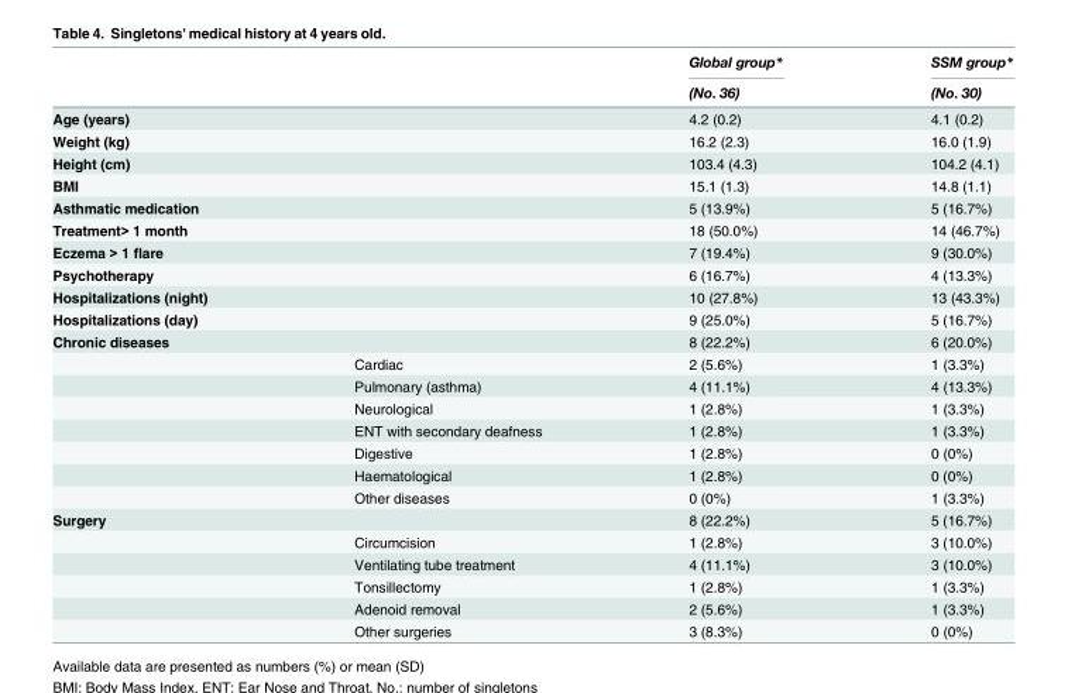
<table><thead><tr><td rowspan="2"></td><td rowspan="2"></td><td rowspan="2">Global group* (No. 36)</td><td rowspan="2">SSM group* (No. 30)</td></tr><tr></tr></thead><tbody><tr><td>Age (years)</td><td></td><td>4.2 (0.2)</td><td>4.1 (0.2)</td></tr><tr><td>Weight (kg)</td><td></td><td>16.2 (2.3)</td><td>16.0 (1.9)</td></tr><tr><td>Height (cm)</td><td></td><td>103.4 (4.3)</td><td>104.2 (4.1)</td></tr><tr><td>BMI</td><td></td><td>15.1 (1.3)</td><td>14.8 (1.1)</td></tr><tr><td>Asthmatic medication</td><td></td><td>5 (13.9%)</td><td>5 (16.7%)</td></tr><tr><td>Treatment&gt; 1 month</td><td></td><td>18 (50.0%)</td><td>14 (46.7%)</td></tr><tr><td>Eczema &gt; 1 flare</td><td></td><td>7 (19.4%)</td><td>9 (30.0%)</td></tr><tr><td>Psychotherapy</td><td></td><td>6 (16.7%)</td><td>4 (13.3%)</td></tr><tr><td>Hospitalizations (night)</td><td></td><td>10 (27.8%)</td><td>13 (43.3%)</td></tr><tr><td>Hospitalizations (day)</td><td></td><td>9 (25.0%)</td><td>5 (16.7%)</td></tr><tr><td rowspan="8">Chronic diseases</td><td></td><td>8 (22.2%)</td><td>6 (20.0%)</td></tr><tr><td>Cardiac</td><td>2 (5.6%)</td><td>1 (3.3%)</td></tr><tr><td>Pulmonary (asthma)</td><td>4 (11.1%)</td><td>4 (13.3%)</td></tr><tr><td>Neurological</td><td>1 (2.8%)</td><td>1 (3.3%)</td></tr><tr><td>ENT with secondary deafness</td><td>1 (2.8%)</td><td>1 (3.3%)</td></tr><tr><td>Digestive</td><td>1 (2.8%)</td><td>0 (0%)</td></tr><tr><td>Haematological</td><td>1 (2.8%)</td><td>0 (0%)</td></tr><tr><td>Other diseases</td><td>0 (0%)</td><td>1 (3.3%)</td></tr><tr><td rowspan="6">Surgery</td><td></td><td>8 (22.2%)</td><td>5 (16.7%)</td></tr><tr><td>Circumcision</td><td>1 (2.8%)</td><td>3 (10.0%)</td></tr><tr><td>Ventilating tube treatment</td><td>4 (11.1%)</td><td>3 (10.0%)</td></tr><tr><td>Tonsillectomy</td><td>1 (2.8%)</td><td>1 (3.3%)</td></tr><tr><td>Adenoid removal</td><td>2 (5.6%)</td><td>1 (3.3%)</td></tr><tr><td>Other surgeries</td><td>3 (8.3%)</td><td>0 (0%)</td></tr></tbody></table>